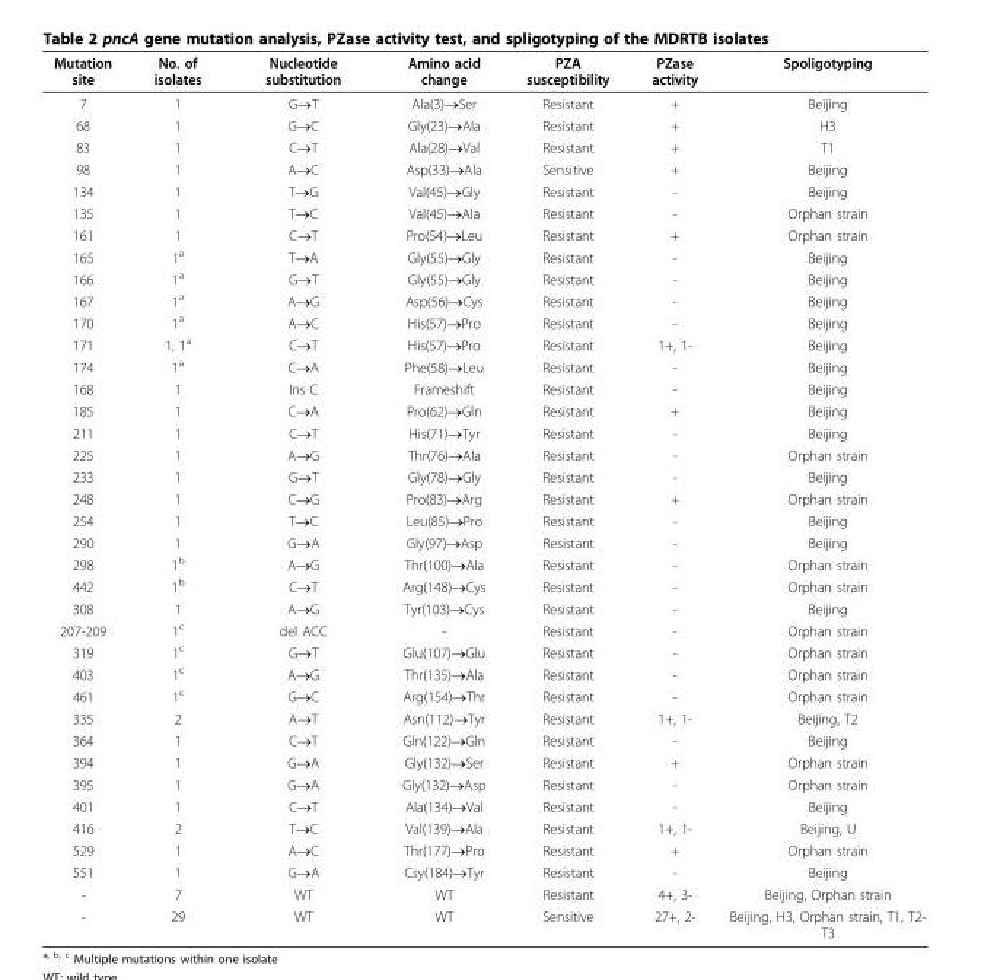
<table><thead><tr><td>Mutation site</td><td>No. of isolates</td><td>Nucleotide substitution</td><td>Amino acid change</td><td>PZA susceptibility</td><td>PZase activity</td><td>Spoligotyping</td></tr></thead><tbody><tr><td>7</td><td>1</td><td>G→T</td><td>Ala(3)→Ser</td><td>Resistant</td><td>+</td><td>Beijing</td></tr><tr><td>68</td><td>1</td><td>G→C</td><td>Gly(23)→Ala</td><td>Resistant</td><td>+</td><td>H3</td></tr><tr><td>83</td><td>1</td><td>C→T</td><td>Ala(28)→Val</td><td>Resistant</td><td>+</td><td>T1</td></tr><tr><td>98</td><td>1</td><td>A→C</td><td>Asp(33)→Ala</td><td>Sensitive</td><td>+</td><td>Beijing</td></tr><tr><td>134</td><td>1</td><td>T→G</td><td>Val(45)→Gly</td><td>Resistant</td><td>-</td><td>Beijing</td></tr><tr><td>135</td><td>1</td><td>T→C</td><td>Val(45)→Ala</td><td>Resistant</td><td>-</td><td>Orphan strain</td></tr><tr><td>161</td><td>1</td><td>C→T</td><td>Pro(54)→Leu</td><td>Resistant</td><td>+</td><td>Orphan strain</td></tr><tr><td>165</td><td>1<sup>a</sup></td><td>T→A</td><td>Gly(55)→Gly</td><td>Resistant</td><td>-</td><td>Beijing</td></tr><tr><td>166</td><td>1<sup>a</sup></td><td>G→T</td><td>Gly(55)→Gly</td><td>Resistant</td><td>-</td><td>Beijing</td></tr><tr><td>167</td><td>1<sup>a</sup></td><td>A→G</td><td>Asp(56)→Cys</td><td>Resistant</td><td>-</td><td>Beijing</td></tr><tr><td>170</td><td>1<sup>a</sup></td><td>A→C</td><td>His(57)→Pro</td><td>Resistant</td><td>-</td><td>Beijing</td></tr><tr><td>171</td><td>1, 1<sup>a</sup></td><td>C→T</td><td>His(57)→Pro</td><td>Resistant</td><td>1+, 1-</td><td>Beijing</td></tr><tr><td>174</td><td>1<sup>a</sup></td><td>C→A</td><td>Phe(58)→Leu</td><td>Resistant</td><td>-</td><td>Beijing</td></tr><tr><td>168</td><td>1</td><td>Ins C</td><td>Frameshift</td><td>Resistant</td><td>-</td><td>Beijing</td></tr><tr><td>185</td><td>1</td><td>C→A</td><td>Pro(62)→Gln</td><td>Resistant</td><td>+</td><td>Beijing</td></tr><tr><td>211</td><td>1</td><td>C→T</td><td>His(71)→Tyr</td><td>Resistant</td><td>-</td><td>Beijing</td></tr><tr><td>225</td><td>1</td><td>A→G</td><td>Thr(76)→Ala</td><td>Resistant</td><td>-</td><td>Orphan strain</td></tr><tr><td>233</td><td>1</td><td>G→T</td><td>Gly(78)→Gly</td><td>Resistant</td><td>-</td><td>Beijing</td></tr><tr><td>248</td><td>1</td><td>C→G</td><td>Pro(83)→Arg</td><td>Resistant</td><td>+</td><td>Orphan strain</td></tr><tr><td>254</td><td>1</td><td>T→C</td><td>Leu(85)→Pro</td><td>Resistant</td><td>-</td><td>Beijing</td></tr><tr><td>290</td><td>1</td><td>G→A</td><td>Gly(97)→Asp</td><td>Resistant</td><td>-</td><td>Beijing</td></tr><tr><td>298</td><td>1<sup>b</sup></td><td>A→G</td><td>Thr(100)→Ala</td><td>Resistant</td><td>-</td><td>Orphan strain</td></tr><tr><td>442</td><td>1<sup>b</sup></td><td>C→T</td><td>Arg(148)→Cys</td><td>Resistant</td><td>-</td><td>Orphan strain</td></tr><tr><td>308</td><td>1</td><td>A→G</td><td>Tyr(103)→Cys</td><td>Resistant</td><td>-</td><td>Beijing</td></tr><tr><td>207-209</td><td>1<sup>c</sup></td><td>del ACC</td><td>-</td><td>Resistant</td><td>-</td><td>Orphan strain</td></tr><tr><td>319</td><td>1<sup>c</sup></td><td>G→T</td><td>Glu(107)→Glu</td><td>Resistant</td><td>-</td><td>Orphan strain</td></tr><tr><td>403</td><td>1<sup>c</sup></td><td>A→G</td><td>Thr(135)→Ala</td><td>Resistant</td><td>-</td><td>Orphan strain</td></tr><tr><td>461</td><td>1<sup>c</sup></td><td>G→C</td><td>Arg(154)→Thr</td><td>Resistant</td><td>-</td><td>Orphan strain</td></tr><tr><td>335</td><td>2</td><td>A→T</td><td>Asn(112)→Tyr</td><td>Resistant</td><td>1+, 1-</td><td>Beijing, T2</td></tr><tr><td>364</td><td>1</td><td>C→T</td><td>Gln(122)→Gln</td><td>Resistant</td><td>-</td><td>Beijing</td></tr><tr><td>394</td><td>1</td><td>G→A</td><td>Gly(132)→Ser</td><td>Resistant</td><td>+</td><td>Orphan strain</td></tr><tr><td>395</td><td>1</td><td>G→A</td><td>Gly(132)→Asp</td><td>Resistant</td><td>-</td><td>Orphan strain</td></tr><tr><td>401</td><td>1</td><td>C→T</td><td>Ala(134)→Val</td><td>Resistant</td><td>-</td><td>Beijing</td></tr><tr><td>416</td><td>2</td><td>T→C</td><td>Val(139)→Ala</td><td>Resistant</td><td>1+, 1-</td><td>Beijing, U</td></tr><tr><td>529</td><td>1</td><td>A→C</td><td>Thr(177)→Pro</td><td>Resistant</td><td>+</td><td>Orphan strain</td></tr><tr><td>551</td><td>1</td><td>G→A</td><td>Csy(184)→Tyr</td><td>Resistant</td><td>-</td><td>Beijing</td></tr><tr><td>-</td><td>7</td><td>WT</td><td>WT</td><td>Resistant</td><td>4+, 3-</td><td>Beijing, Orphan strain</td></tr><tr><td>-</td><td>29</td><td>WT</td><td>WT</td><td>Sensitive</td><td>27+, 2-</td><td>Beijing, H3, Orphan strain, T1, T2-</td></tr></tbody></table>